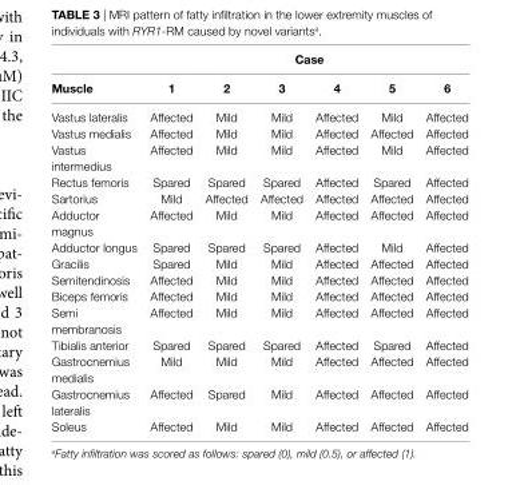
<table><thead><tr><td rowspan="2">Muscle</td><td colspan="6">Case</td></tr><tr><td>1</td><td>2</td><td>3</td><td>4</td><td>5</td><td>6</td></tr></thead><tbody><tr><td>Vastus lateralis</td><td>Affected</td><td>Mild</td><td>Mild</td><td>Affected</td><td>Mild</td><td>Affected</td></tr><tr><td>Vastus medialis</td><td>Affected</td><td>Mild</td><td>Mild</td><td>Affected</td><td>Affected</td><td>Affected</td></tr><tr><td>Vastus intermedius</td><td>Affected</td><td>Mild</td><td>Mild</td><td>Affected</td><td>Mild</td><td>Affected</td></tr><tr><td>Rectus femoris</td><td>Spared</td><td>Spared</td><td>Spared</td><td>Affected</td><td>Spared</td><td>Affected</td></tr><tr><td>Sartorius</td><td>Mild</td><td>Affected</td><td>Affected</td><td>Affected</td><td>Affected</td><td>Affected</td></tr><tr><td>Adductor magnus</td><td>Affected</td><td>Mild</td><td>Mild</td><td>Affected</td><td>Affected</td><td>Affected</td></tr><tr><td>Adductor longus</td><td>Spared</td><td>Spared</td><td>Spared</td><td>Affected</td><td>Mild</td><td>Affected</td></tr><tr><td>Gracilis</td><td>Spared</td><td>Mild</td><td>Mild</td><td>Affected</td><td>Affected</td><td>Affected</td></tr><tr><td>Semitendinosis</td><td>Affected</td><td>Mild</td><td>Mild</td><td>Affected</td><td>Affected</td><td>Affected</td></tr><tr><td>Biceps femoris</td><td>Affected</td><td>Mild</td><td>Mild</td><td>Affected</td><td>Affected</td><td>Affected</td></tr><tr><td>Semi membranosis</td><td>Affected</td><td>Mild</td><td>Mild</td><td>Affected</td><td>Affected</td><td>Affected</td></tr><tr><td>Tibialis anterior</td><td>Spared</td><td>Spared</td><td>Spared</td><td>Affected</td><td>Spared</td><td>Affected</td></tr><tr><td>Gastrocnemius medialis</td><td>Mild</td><td>Mild</td><td>Mild</td><td>Affected</td><td>Affected</td><td>Affected</td></tr><tr><td>Gastrocnemius lateralis</td><td>Affected</td><td>Spared</td><td>Mild</td><td>Affected</td><td>Affected</td><td>Affected</td></tr><tr><td>Soleus</td><td>Affected</td><td>Mild</td><td>Mild</td><td>Affected</td><td>Affected</td><td>Affected</td></tr></tbody></table>